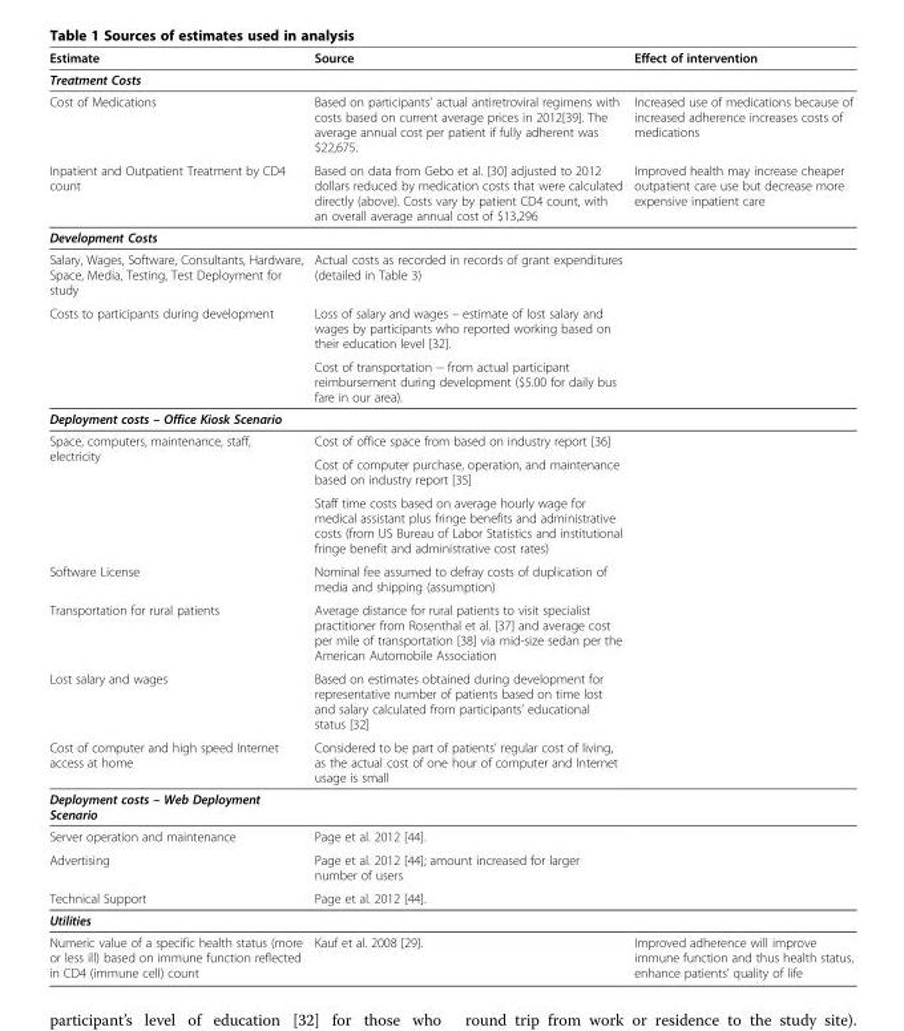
<table><thead><tr><td>Estimate</td><td>Source</td><td>Effect of intervention</td></tr></thead><tbody><tr><td colspan="3">Treatment Costs</td></tr><tr><td>Cost of Medications</td><td>Based on participants’ actual antiretroviral regimens with costs based on current average prices in 2012[39]. The average annual cost per patient if fully adherent was $22,675.</td><td>Increased use of medications because of increased adherence increases costs of medications</td></tr><tr><td>Inpatient and Outpatient Treatment by CD4 count</td><td>Based on data from Gebo et al. [30] adjusted to 2012 dollars reduced by medication costs that were calculated directly (above). Costs vary by patient CD4 count, with an overall average annual cost of $13,296</td><td>Improved health may increase cheaper outpatient care use but decrease more expensive inpatient care</td></tr><tr><td colspan="3">Development Costs</td></tr><tr><td>Salary, Wages, Software, Consultants, Hardware, Space, Media, Testing, Test Deployment for study</td><td>Actual costs as recorded in records of grant expenditures (detailed in Table 3)</td><td></td></tr><tr><td rowspan="2">Costs to participants during development</td><td>Loss of salary and wages – estimate of lost salary and wages by participants who reported working based on their education level [32].</td><td rowspan="2"></td></tr><tr><td>Cost of transportation -- from actual participant reimbursement during development ($5.00 for daily bus fare in our area).</td></tr><tr><td colspan="3">Deployment costs – Office Kiosk Scenario</td></tr><tr><td rowspan="3">Space, computers, maintenance, staff, electricity</td><td>Cost of office space from based on industry report [36]</td><td rowspan="3"></td></tr><tr><td>Cost of computer purchase, operation, and maintenance based on industry report [35]</td></tr><tr><td>Staff time costs based on average hourly wage for medical assistant plus fringe benefits and administrative costs (from US Bureau of Labor Statistics and institutional fringe benefit and administrative cost rates)</td></tr><tr><td>Software License</td><td>Nominal fee assumed to defray costs of duplication of media and shipping (assumption)</td><td></td></tr><tr><td>Transportation for rural patients</td><td>Average distance for rural patients to visit specialist practitioner from Rosenthal et al. [37] and average cost per mile of transportation [38] via mid-size sedan per the American Automobile Association</td><td></td></tr><tr><td>Lost salary and wages</td><td>Based on estimates obtained during development for representative number of patients based on time lost and salary calculated from participants’ educational status [32]</td><td></td></tr><tr><td>Cost of computer and high speed Internet access at home</td><td>Considered to be part of patients’ regular cost of living, as the actual cost of one hour of computer and Internet usage is small</td><td></td></tr><tr><td colspan="3">Deployment costs – Web Deployment Scenario</td></tr><tr><td>Server operation and maintenance</td><td>Page et al. 2012 [44].</td><td></td></tr><tr><td>Advertising</td><td>Page et al. 2012 [44]; amount increased for larger number of users</td><td></td></tr><tr><td>Technical Support</td><td>Page et al. 2012 [44].</td><td></td></tr><tr><td colspan="3">Utilities</td></tr><tr><td>Numeric value of a specific health status (more or less ill) based on immune function reflected in CD4 (immune cell) count</td><td>Kauf et al. 2008 [29].</td><td>Improved adherence will improve immune function and thus health status, enhance patients’ quality of life</td></tr></tbody></table>